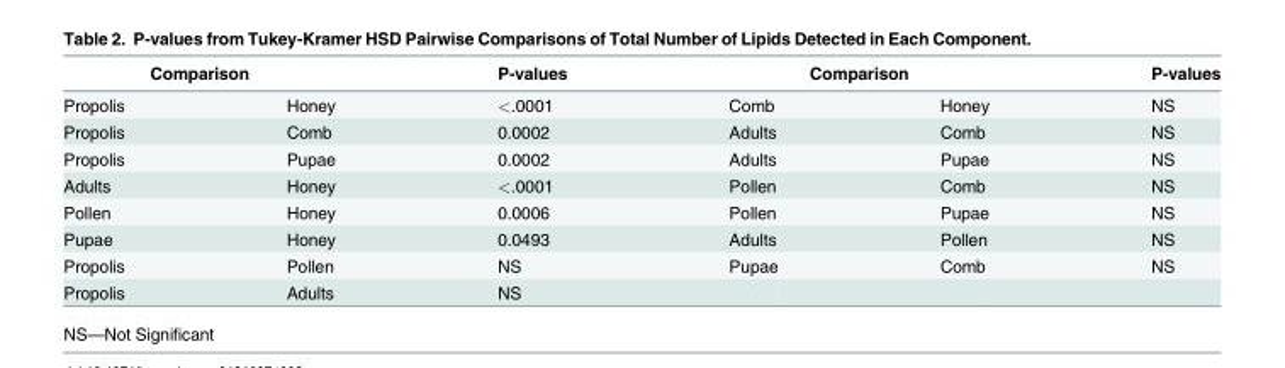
<table><thead><tr><td colspan="2">Comparison</td><td rowspan="2">P-values &lt;.0001</td><td colspan="2">Comparison</td><td rowspan="2">P-values NS</td></tr><tr><td>Propolis</td><td>Honey</td><td>Comb</td><td>Honey</td></tr></thead><tbody><tr><td>Propolis</td><td>Comb</td><td>0.0002</td><td>Adults</td><td>Comb</td><td>NS</td></tr><tr><td>Propolis</td><td>Pupae</td><td>0.0002</td><td>Adults</td><td>Pupae</td><td>NS</td></tr><tr><td>Adults</td><td>Honey</td><td>&lt;.0001</td><td>Pollen</td><td>Comb</td><td>NS</td></tr><tr><td>Pollen</td><td>Honey</td><td>0.0006</td><td>Pollen</td><td>Pupae</td><td>NS</td></tr><tr><td>Pupae</td><td>Honey</td><td>0.0493</td><td>Adults</td><td>Pollen</td><td>NS</td></tr><tr><td>Propolis</td><td>Pollen</td><td>NS</td><td>Pupae</td><td>Comb</td><td>NS</td></tr><tr><td>Propolis</td><td>Adults</td><td>NS</td><td></td><td></td><td></td></tr></tbody></table>